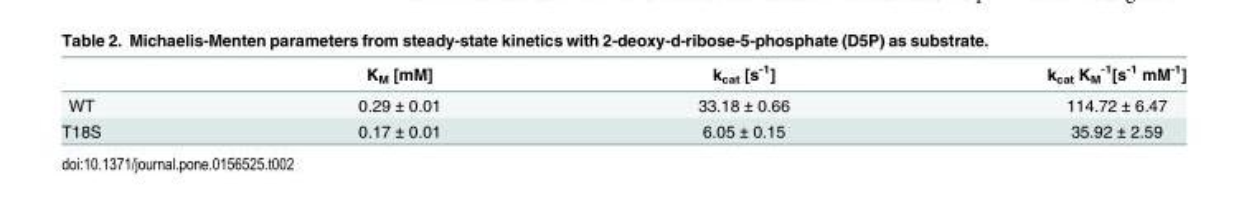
<table><thead><tr><td></td><td>K<sub>M</sub> [mM]</td><td>k<sub>cat</sub> [s<sup>-1</sup>]</td><td>k<sub>cat</sub> K<sub>M</sub> <sup>-1</sup>[s<sup>-1</sup> mM<sup>-1</sup>]</td></tr></thead><tbody><tr><td>WT</td><td>0.29 ± 0.01</td><td>33.18 ± 0.66</td><td>114.72 ± 6.47</td></tr><tr><td>T18S</td><td>0.17 ± 0.01</td><td>6.05 ± 0.15</td><td>35.92 ± 2.59</td></tr></tbody></table>